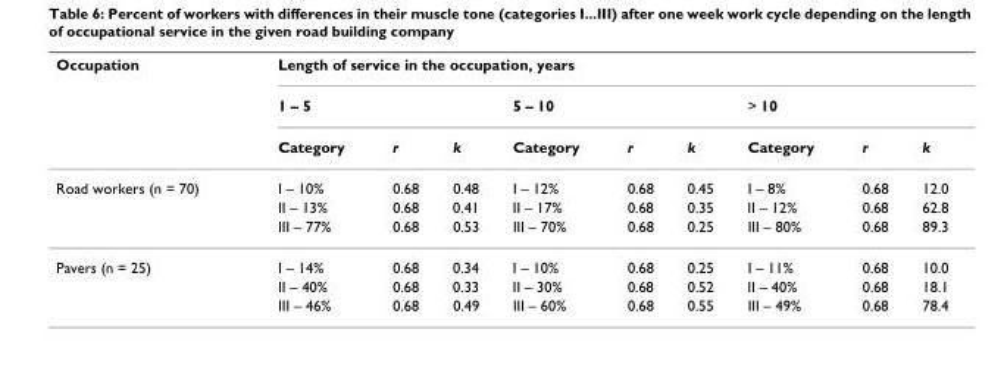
<table><thead><tr><td rowspan="3">Occupation</td><td colspan="9">Length of service in the occupation, years</td></tr><tr><td colspan="3">1 – 5</td><td colspan="3">5 – 10</td><td colspan="3">&gt; 10</td></tr><tr><td>Category</td><td>r</td><td>k</td><td>Category</td><td>r</td><td>k</td><td>Category</td><td>r</td><td>k</td></tr></thead><tbody><tr><td rowspan="3">Road workers (n = 70)</td><td>I – 10%</td><td>0.68</td><td>0.48</td><td>I – 12%</td><td>0.68</td><td>0.45</td><td>I – 8%</td><td>0.68</td><td>12.0</td></tr><tr><td>II – 13%</td><td>0.68</td><td>0.41</td><td>II – 17%</td><td>0.68</td><td>0.35</td><td>II – 12%</td><td>0.68</td><td>62.8</td></tr><tr><td>III – 77%</td><td>0.68</td><td>0.53</td><td>III – 70%</td><td>0.68</td><td>0.25</td><td>III – 80%</td><td>0.68</td><td>89.3</td></tr><tr><td rowspan="3">Pavers (n = 25)</td><td>I – 14%</td><td>0.68</td><td>0.34</td><td>I – 10%</td><td>0.68</td><td>0.25</td><td>I – 11%</td><td>0.68</td><td>10.0</td></tr><tr><td>II – 40%</td><td>0.68</td><td>0.33</td><td>II – 30%</td><td>0.68</td><td>0.52</td><td>II – 40%</td><td>0.68</td><td>18.1</td></tr><tr><td>III – 46%</td><td>0.68</td><td>0.49</td><td>III – 60%</td><td>0.68</td><td>0.55</td><td>III – 49%</td><td>0.68</td><td>78.4</td></tr></tbody></table>